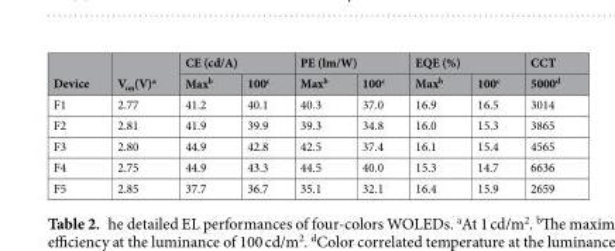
<table><thead><tr><td rowspan="2">Device</td><td rowspan="2">V<sub>on</sub>(V)<sup>a</sup></td><td colspan="2">CE (cd/A)</td><td colspan="2">PE (lm/W)</td><td colspan="2">EQE (%)</td><td rowspan="2">CCT 5000<sup>d</sup></td></tr><tr><td>Max<sup>b</sup></td><td>100<sup>c</sup></td><td>Max<sup>b</sup></td><td>100<sup>c</sup></td><td>Max<sup>b</sup></td><td>100<sup>c</sup></td></tr></thead><tbody><tr><td>F1</td><td>2.77</td><td>41.2</td><td>40.1</td><td>40.3</td><td>37.0</td><td>16.9</td><td>16.5</td><td>3014</td></tr><tr><td>F2</td><td>2.81</td><td>41.9</td><td>39.9</td><td>39.3</td><td>34.8</td><td>16.0</td><td>15.3</td><td>3865</td></tr><tr><td>F3</td><td>2.80</td><td>44.9</td><td>42.8</td><td>42.5</td><td>37.4</td><td>16.1</td><td>15.4</td><td>4565</td></tr><tr><td>F4</td><td>2.75</td><td>44.9</td><td>43.3</td><td>44.5</td><td>40.0</td><td>15.3</td><td>14.7</td><td>6636</td></tr><tr><td>F5</td><td>2.85</td><td>37.7</td><td>36.7</td><td>35.1</td><td>32.1</td><td>16.4</td><td>15.9</td><td>2659</td></tr></tbody></table>